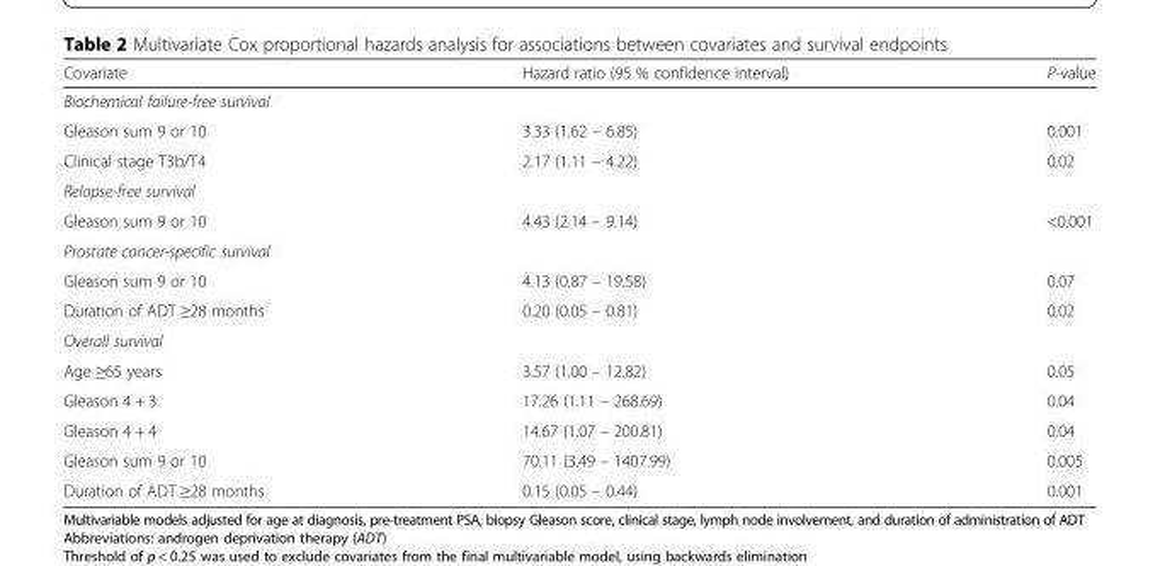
<table><thead><tr><td>Covariate</td><td>Hazard ratio (95 % confidence interval)</td><td>P-value</td></tr></thead><tbody><tr><td colspan="3">Biochemical failure-free survival</td></tr><tr><td>Gleason sum 9 or 10</td><td>3.33 (1.62 – 6.85)</td><td>0.001</td></tr><tr><td>Clinical stage T3b/T4</td><td>2.17 (1.11 – 4.22)</td><td>0.02</td></tr><tr><td colspan="3">Relapse-free survival</td></tr><tr><td>Gleason sum 9 or 10</td><td>4.43 (2.14 – 9.14)</td><td>&lt;0.001</td></tr><tr><td colspan="3">Prostate cancer-specific survival</td></tr><tr><td>Gleason sum 9 or 10</td><td>4.13 (0.87 – 19.58)</td><td>0.07</td></tr><tr><td>Duration of ADT ≥28 months</td><td>0.20 (0.05 – 0.81)</td><td>0.02</td></tr><tr><td colspan="3">Overall survival</td></tr><tr><td>Age ≥65 years</td><td>3.57 (1.00 – 12.82)</td><td>0.05</td></tr><tr><td>Gleason 4 + 3</td><td>17.26 (1.11 – 268.69)</td><td>0.04</td></tr><tr><td>Gleason 4 + 4</td><td>14.67 (1.07 – 200.81)</td><td>0.04</td></tr><tr><td>Gleason sum 9 or 10</td><td>70.11 (3.49 – 1407.99)</td><td>0.005</td></tr><tr><td>Duration of ADT ≥28 months</td><td>0.15 (0.05 – 0.44)</td><td>0.001</td></tr></tbody></table>